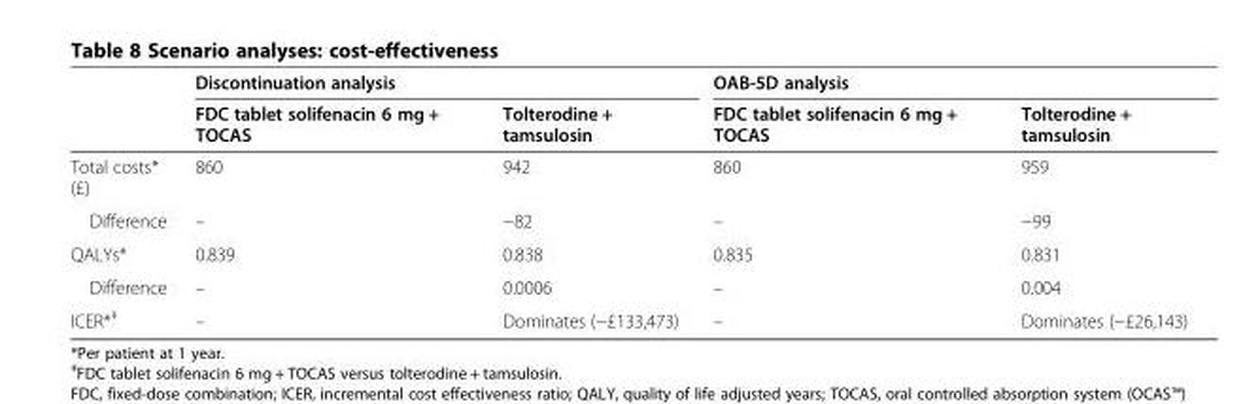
<table><thead><tr><td rowspan="2"></td><td colspan="2">Discontinuation analysis</td><td colspan="2">OAB-5D analysis</td></tr><tr><td>FDC tablet solifenacin 6 mg + TOCAS</td><td>Tolterodine + tamsulosin</td><td>FDC tablet solifenacin 6 mg + TOCAS</td><td>Tolterodine + tamsulosin</td></tr></thead><tbody><tr><td>Total costs* (£)</td><td>860</td><td>942</td><td>860</td><td>959</td></tr><tr><td>Difference</td><td>–</td><td>−82</td><td>–</td><td>−99</td></tr><tr><td>QALYs*</td><td>0.839</td><td>0.838</td><td>0.835</td><td>0.831</td></tr><tr><td>Difference</td><td>–</td><td>0.0006</td><td>–</td><td>0.004</td></tr><tr><td>ICER*<sup>‡</sup></td><td>–</td><td>Dominates (−£133,473)</td><td>–</td><td>Dominates (−£26,143)</td></tr></tbody></table>